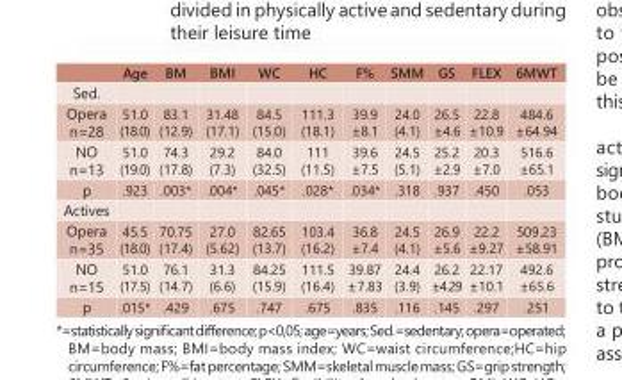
<table><thead><tr><td></td><td>Age</td><td>BM</td><td>BMI</td><td>WC</td><td>HC</td><td>F%</td><td>SMM</td><td>GS</td><td>FLEX</td><td>6MWT</td></tr></thead><tbody><tr><td colspan="11">Sed.</td></tr><tr><td>Opera n=28</td><td>51.0 (18.0)</td><td>83.1 (12.9)</td><td>31.48 (17.1)</td><td>84.5 (15.0)</td><td>111.3 (18.1)</td><td>39.9 ±8.1</td><td>24.0 (4.1)</td><td>26.5 ±4.6</td><td>22.8 ±10.9</td><td>484.6 ±64.94</td></tr><tr><td>NO n=13</td><td>51.0 (19.0)</td><td>74.3 (17.8)</td><td>29.2 (7.3)</td><td>84.0 (32.5)</td><td>111 (11.5)</td><td>39.6 ±7.5</td><td>24.5 (5.1)</td><td>25.2 ±2.9</td><td>20.3 ±7.0</td><td>516.6 ±65.1</td></tr><tr><td>p</td><td>.923</td><td>.003*</td><td>.004*</td><td>.045*</td><td>.028*</td><td>.034*</td><td>.318</td><td>.937</td><td>.450</td><td>.053</td></tr><tr><td colspan="11">Actives</td></tr><tr><td>Opera n=35</td><td>45.5 (18.0)</td><td>70.75 (17.4)</td><td>27.0 (5.62)</td><td>82.65 (13.7)</td><td>103.4 (16.2)</td><td>36.8 ±7.4</td><td>24.5 (4.1)</td><td>26.9 ±5.6</td><td>22.2 ±9.27</td><td>509.23 ±58.91</td></tr><tr><td>NO n=15</td><td>51.0 (17.5)</td><td>76.1 (14.7)</td><td>31.3 (6.6)</td><td>84.25 (15.9)</td><td>111.5 (16.4)</td><td>39.87 ±7.83</td><td>24.4 (3.9)</td><td>26.2 ±4.29</td><td>22.17 ±10.1</td><td>492.6 ±65.6</td></tr><tr><td>p</td><td>.015*</td><td>.429</td><td>.675</td><td>.747</td><td>.675</td><td>.835</td><td>.116</td><td>.145</td><td>.297</td><td>.251</td></tr></tbody></table>